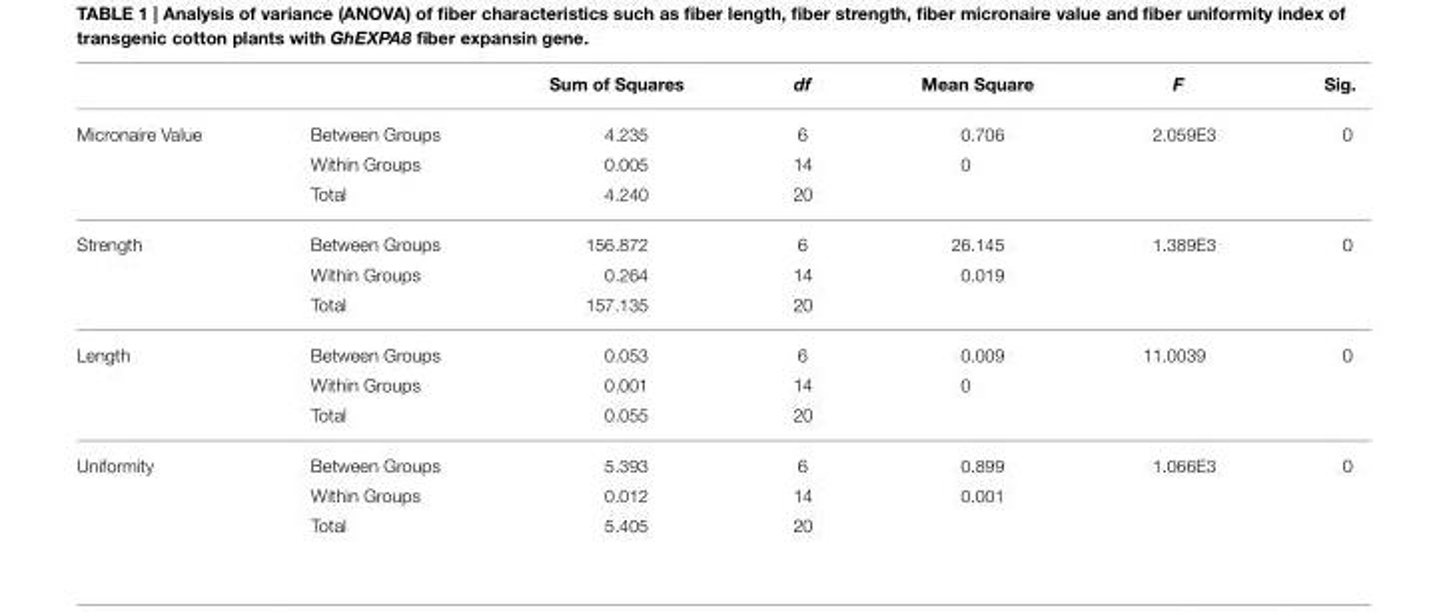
<table><thead><tr><td></td><td></td><td>Sum of Squares</td><td>df</td><td>Mean Square</td><td>F</td><td>Sig.</td></tr></thead><tbody><tr><td rowspan="3">Micronaire Value</td><td>Between Groups</td><td>4.235</td><td>6</td><td>0.706</td><td>2.059E3</td><td>0</td></tr><tr><td>Within Groups</td><td>0.005</td><td>14</td><td>0</td><td></td><td></td></tr><tr><td>Total</td><td>4.240</td><td>20</td><td></td><td></td><td></td></tr><tr><td rowspan="3">Strength</td><td>Between Groups</td><td>156.872</td><td>6</td><td>26.145</td><td>1.389E3</td><td>0</td></tr><tr><td>Within Groups</td><td>0.264</td><td>14</td><td>0.019</td><td></td><td></td></tr><tr><td>Total</td><td>157.135</td><td>20</td><td></td><td></td><td></td></tr><tr><td rowspan="3">Length</td><td>Between Groups</td><td>0.053</td><td>6</td><td>0.009</td><td>11.0039</td><td>0</td></tr><tr><td>Within Groups</td><td>0.001</td><td>14</td><td>0</td><td></td><td></td></tr><tr><td>Total</td><td>0.055</td><td>20</td><td></td><td></td><td></td></tr><tr><td rowspan="3">Uniformity</td><td>Between Groups</td><td>5.393</td><td>6</td><td>0.899</td><td>1.066E3</td><td>0</td></tr><tr><td>Within Groups</td><td>0.012</td><td>14</td><td>0.001</td><td></td><td></td></tr><tr><td>Total</td><td>5.405</td><td>20</td><td></td><td></td><td></td></tr></tbody></table>